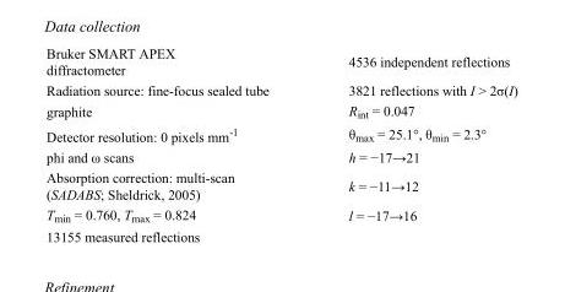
<table><tbody><tr><td>Bruker SMART APEX diffractometer</td><td>4536 independent reflections</td></tr><tr><td>Radiation source: fine-focus sealed tube</td><td>3821 reflections with I &gt; 2σ(I)</td></tr><tr><td>graphite</td><td>R<sub>int</sub> = 0.047</td></tr><tr><td>Detector resolution: 0 pixels mm<sup>-1</sup></td><td>θ<sub>max</sub> = 25.1°, θ<sub>min</sub> = 2.3°</td></tr><tr><td>phi and ω scans</td><td>h = −17→21</td></tr><tr><td>Absorption correction: multi-scan (SADABS; Sheldrick, 2005)</td><td>k = −11→12</td></tr><tr><td>T<sub>min</sub> = 0.760, T<sub>max</sub> = 0.824</td><td>l = −17→16</td></tr><tr><td>13155 measured reflections</td><td></td></tr></tbody></table>